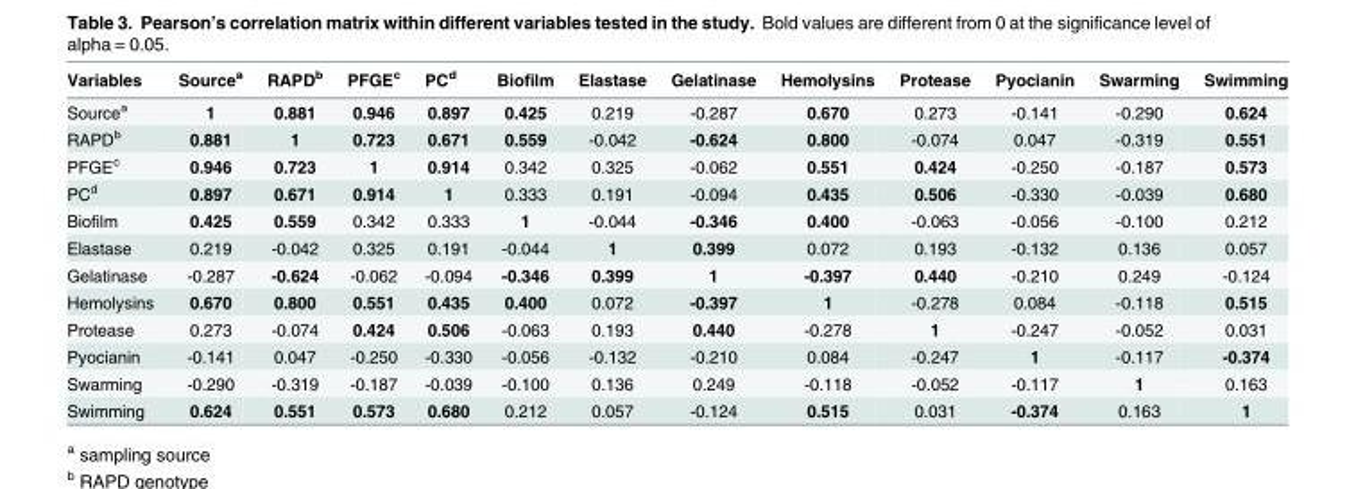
<table><thead><tr><td>Variables</td><td>Source<sup>a</sup></td><td>RAPD<sup>b</sup></td><td>PFGE<sup>c</sup></td><td>PC<sup>d</sup></td><td>Biofilm</td><td>Elastase</td><td>Gelatinase</td><td>Hemolysins</td><td>Protease</td><td>Pyocianin</td><td>Swarming</td><td>Swimming</td></tr></thead><tbody><tr><td>Source<sup>a</sup></td><td>1</td><td>0.881</td><td>0.946</td><td>0.897</td><td>0.425</td><td>0.219</td><td>-0.287</td><td>0.670</td><td>0.273</td><td>-0.141</td><td>-0.290</td><td>0.624</td></tr><tr><td>RAPD<sup>b</sup></td><td>0.881</td><td>1</td><td>0.723</td><td>0.671</td><td>0.559</td><td>-0.042</td><td>-0.624</td><td>0.800</td><td>-0.074</td><td>0.047</td><td>-0.319</td><td>0.551</td></tr><tr><td>PFGE<sup>c</sup></td><td>0.946</td><td>0.723</td><td>1</td><td>0.914</td><td>0.342</td><td>0.325</td><td>-0.062</td><td>0.551</td><td>0.424</td><td>-0.250</td><td>-0.187</td><td>0.573</td></tr><tr><td>PC<sup>d</sup></td><td>0.897</td><td>0.671</td><td>0.914</td><td>1</td><td>0.333</td><td>0.191</td><td>-0.094</td><td>0.435</td><td>0.506</td><td>-0.330</td><td>-0.039</td><td>0.680</td></tr><tr><td>Biofilm</td><td>0.425</td><td>0.559</td><td>0.342</td><td>0.333</td><td>1</td><td>-0.044</td><td>-0.346</td><td>0.400</td><td>-0.063</td><td>-0.056</td><td>-0.100</td><td>0.212</td></tr><tr><td>Elastase</td><td>0.219</td><td>-0.042</td><td>0.325</td><td>0.191</td><td>-0.044</td><td>1</td><td>0.399</td><td>0.072</td><td>0.193</td><td>-0.132</td><td>0.136</td><td>0.057</td></tr><tr><td>Gelatinase</td><td>-0.287</td><td>-0.624</td><td>-0.062</td><td>-0.094</td><td>-0.346</td><td>0.399</td><td>1</td><td>-0.397</td><td>0.440</td><td>-0.210</td><td>0.249</td><td>-0.124</td></tr><tr><td>Hemolysins</td><td>0.670</td><td>0.800</td><td>0.551</td><td>0.435</td><td>0.400</td><td>0.072</td><td>-0.397</td><td>1</td><td>-0.278</td><td>0.084</td><td>-0.118</td><td>0.515</td></tr><tr><td>Protease</td><td>0.273</td><td>-0.074</td><td>0.424</td><td>0.506</td><td>-0.063</td><td>0.193</td><td>0.440</td><td>-0.278</td><td>1</td><td>-0.247</td><td>-0.052</td><td>0.031</td></tr><tr><td>Pyocianin</td><td>-0.141</td><td>0.047</td><td>-0.250</td><td>-0.330</td><td>-0.056</td><td>-0.132</td><td>-0.210</td><td>0.084</td><td>-0.247</td><td>1</td><td>-0.117</td><td>-0.374</td></tr><tr><td>Swarming</td><td>-0.290</td><td>-0.319</td><td>-0.187</td><td>-0.039</td><td>-0.100</td><td>0.136</td><td>0.249</td><td>-0.118</td><td>-0.052</td><td>-0.117</td><td>1</td><td>0.163</td></tr><tr><td>Swimming</td><td>0.624</td><td>0.551</td><td>0.573</td><td>0.680</td><td>0.212</td><td>0.057</td><td>-0.124</td><td>0.515</td><td>0.031</td><td>-0.374</td><td>0.163</td><td>1</td></tr></tbody></table>